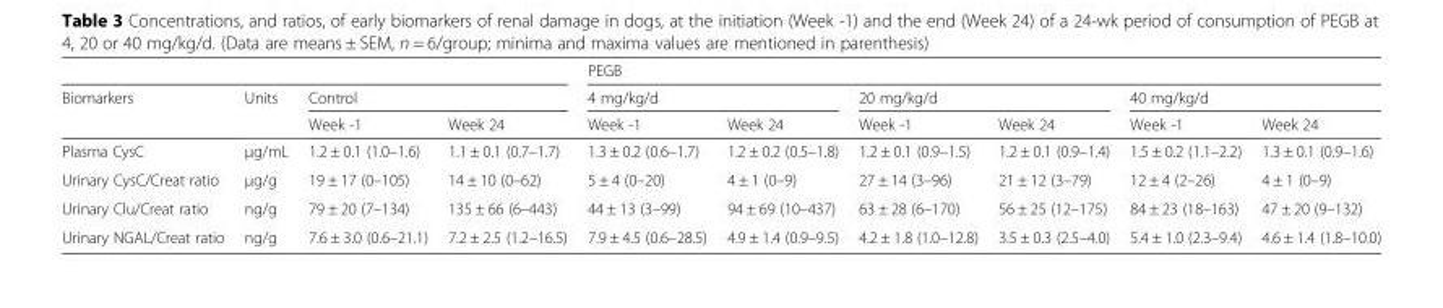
<table><thead><tr><td rowspan="3">Biomarkers</td><td rowspan="3">Units</td><td></td><td></td><td colspan="6">PEGB</td></tr><tr><td colspan="2">Control</td><td colspan="2">4 mg/kg/d</td><td colspan="2">20 mg/kg/d</td><td colspan="2">40 mg/kg/d</td></tr><tr><td>Week -1</td><td>Week 24</td><td>Week -1</td><td>Week 24</td><td>Week -1</td><td>Week 24</td><td>Week -1</td><td>Week 24</td></tr></thead><tbody><tr><td>Plasma CysC</td><td>μg/mL</td><td>1.2 ± 0.1 (1.0–1.6)</td><td>1.1 ± 0.1 (0.7–1.7)</td><td>1.3 ± 0.2 (0.6–1.7)</td><td>1.2 ± 0.2 (0.5–1.8)</td><td>1.2 ± 0.1 (0.9–1.5)</td><td>1.2 ± 0.1 (0.9–1.4)</td><td>1.5 ± 0.2 (1.1–2.2)</td><td>1.3 ± 0.1 (0.9–1.6)</td></tr><tr><td>Urinary CysC/Creat ratio</td><td>μg/g</td><td>19 ± 17 (0–105)</td><td>14 ± 10 (0–62)</td><td>5 ± 4 (0–20)</td><td>4 ± 1 (0–9)</td><td>27 ± 14 (3–96)</td><td>21 ± 12 (3–79)</td><td>12 ± 4 (2–26)</td><td>4 ± 1 (0–9)</td></tr><tr><td>Urinary Clu/Creat ratio</td><td>ng/g</td><td>79 ± 20 (7–134)</td><td>135 ± 66 (6–443)</td><td>44 ± 13 (3–99)</td><td>94 ± 69 (10–437)</td><td>63 ± 28 (6–170)</td><td>56 ± 25 (12–175)</td><td>84 ± 23 (18–163)</td><td>47 ± 20 (9–132)</td></tr><tr><td>Urinary NGAL/Creat ratio</td><td>ng/g</td><td>7.6 ± 3.0 (0.6–21.1)</td><td>7.2 ± 2.5 (1.2–16.5)</td><td>7.9 ± 4.5 (0.6–28.5)</td><td>4.9 ± 1.4 (0.9–9.5)</td><td>4.2 ± 1.8 (1.0–12.8)</td><td>3.5 ± 0.3 (2.5–4.0)</td><td>5.4 ± 1.0 (2.3–9.4)</td><td>4.6 ± 1.4 (1.8–10.0)</td></tr></tbody></table>